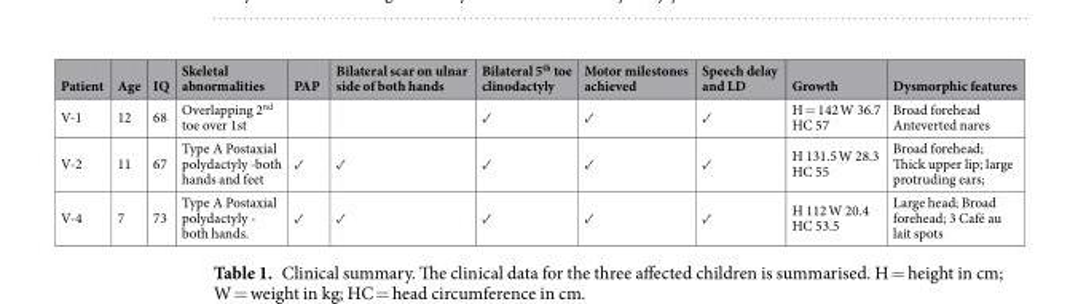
<table><thead><tr><td>Patient</td><td>Age</td><td>IQ</td><td>Skeletal abnormalities</td><td>PAP</td><td>Bilateral scar on ulnar side of both hands</td><td>Bilateral 5<sup>th</sup> toe clinodactyly</td><td>Motor milestones achieved</td><td>Speech delay and LD</td><td>Growth</td><td>Dysmorphic features</td></tr></thead><tbody><tr><td>V-1</td><td>12</td><td>68</td><td>Overlapping 2<sup>nd</sup> toe over 1st</td><td></td><td></td><td>✓</td><td>✓</td><td>✓</td><td>H = 142 W 36.7 HC 57</td><td>Broad forehead Anteverted nares</td></tr><tr><td>V-2</td><td>11</td><td>67</td><td>Type A Postaxial polydactyly -both hands and feet</td><td>✓</td><td>✓</td><td>✓</td><td>✓</td><td>✓</td><td>H 131.5 W 28.3 HC 55</td><td>Broad forehead; Thick upper lip; large protruding ears;</td></tr><tr><td>V-4</td><td>7</td><td>73</td><td>Type A Postaxial polydactyly - both hands.</td><td>✓</td><td>✓</td><td>✓</td><td>✓</td><td>✓</td><td>H 112 W 20.4 HC 53.5</td><td>Large head; Broad forehead; 3 Café au lait spots</td></tr></tbody></table>